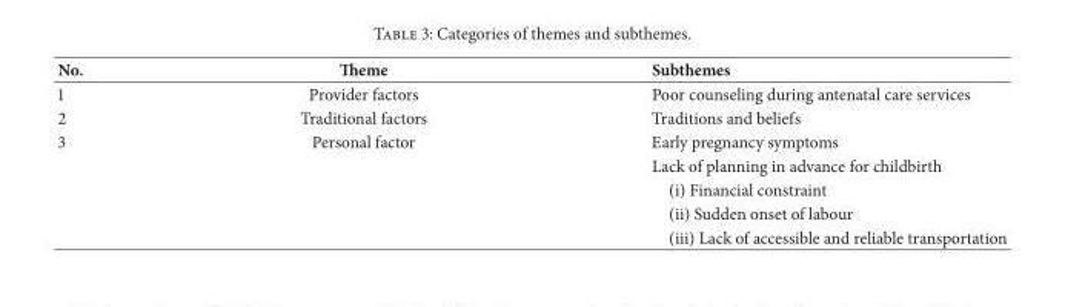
<table><thead><tr><td>No.</td><td>Theme</td><td>Subthemes</td></tr></thead><tbody><tr><td>1</td><td>Provider factors</td><td>Poor counseling during antenatal care services</td></tr><tr><td>2</td><td>Traditional factors</td><td>Traditions and beliefs</td></tr><tr><td rowspan="5">3</td><td>Personal factor</td><td>Early pregnancy symptoms</td></tr><tr><td rowspan="4"></td><td>Lack of planning in advance for childbirth</td></tr><tr><td>(i) Financial constraint</td></tr><tr><td>(ii) Sudden onset of labour</td></tr><tr><td>(iii) Lack of accessible and reliable transportation</td></tr></tbody></table>